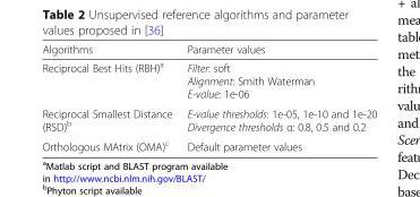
<table><thead><tr><td>Algorithms</td><td>Parameter values</td></tr></thead><tbody><tr><td>Reciprocal Best Hits (RBH)<sup>a</sup></td><td>Filter: soft Alignment: Smith Waterman E-value: 1e-06</td></tr><tr><td>Reciprocal Smallest Distance (RSD)<sup>b</sup></td><td>E-value thresholds: 1e-05, 1e-10 and 1e-20 Divergence thresholds α: 0.8, 0.5 and 0.2</td></tr><tr><td>Orthologous MAtrix (OMA)<sup>c</sup></td><td>Default parameter values</td></tr></tbody></table>